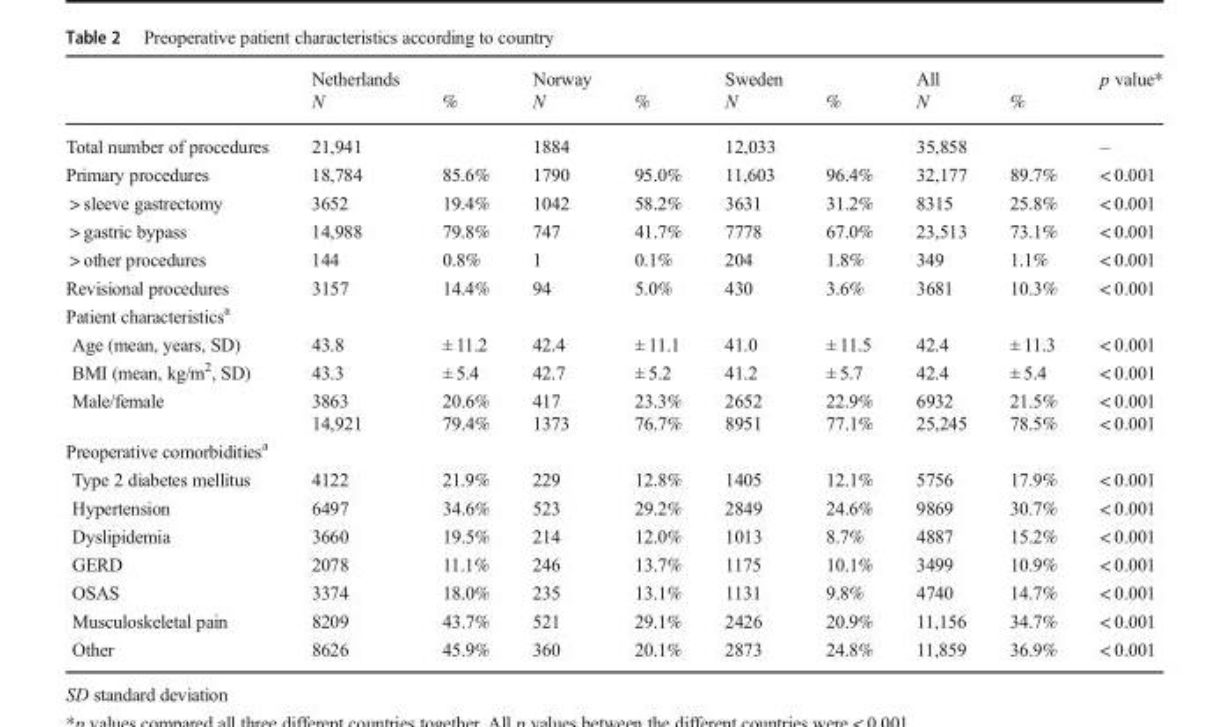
<table><thead><tr><td rowspan="2"></td><td rowspan="2">Netherlands N</td><td rowspan="2">%</td><td rowspan="2">Norway N</td><td rowspan="2">%</td><td rowspan="2">Sweden N</td><td rowspan="2">%</td><td rowspan="2">All N</td><td rowspan="2">%</td><td rowspan="2">p value*</td></tr><tr></tr></thead><tbody><tr><td>Total number of procedures</td><td>21,941</td><td></td><td>1884</td><td></td><td>12,033</td><td></td><td>35,858</td><td></td><td>–</td></tr><tr><td>Primary procedures</td><td>18,784</td><td>85.6%</td><td>1790</td><td>95.0%</td><td>11,603</td><td>96.4%</td><td>32,177</td><td>89.7%</td><td>&lt; 0.001</td></tr><tr><td>&gt; sleeve gastrectomy</td><td>3652</td><td>19.4%</td><td>1042</td><td>58.2%</td><td>3631</td><td>31.2%</td><td>8315</td><td>25.8%</td><td>&lt; 0.001</td></tr><tr><td>&gt; gastric bypass</td><td>14,988</td><td>79.8%</td><td>747</td><td>41.7%</td><td>7778</td><td>67.0%</td><td>23,513</td><td>73.1%</td><td>&lt; 0.001</td></tr><tr><td>&gt; other procedures</td><td>144</td><td>0.8%</td><td>1</td><td>0.1%</td><td>204</td><td>1.8%</td><td>349</td><td>1.1%</td><td>&lt; 0.001</td></tr><tr><td>Revisional procedures</td><td>3157</td><td>14.4%</td><td>94</td><td>5.0%</td><td>430</td><td>3.6%</td><td>3681</td><td>10.3%</td><td>&lt; 0.001</td></tr><tr><td colspan="10">Patient characteristics<sup>a</sup></td></tr><tr><td>Age (mean, years, SD)</td><td>43.8</td><td>± 11.2</td><td>42.4</td><td>± 11.1</td><td>41.0</td><td>± 11.5</td><td>42.4</td><td>± 11.3</td><td>&lt; 0.001</td></tr><tr><td>BMI (mean, kg/m<sup>2</sup>, SD)</td><td>43.3</td><td>± 5.4</td><td>42.7</td><td>± 5.2</td><td>41.2</td><td>± 5.7</td><td>42.4</td><td>± 5.4</td><td>&lt; 0.001</td></tr><tr><td>Male/female</td><td>3863 14,921</td><td>20.6% 79.4%</td><td>417 1373</td><td>23.3% 76.7%</td><td>2652 8951</td><td>22.9% 77.1%</td><td>6932 25,245</td><td>21.5% 78.5%</td><td>&lt; 0.001 &lt; 0.001</td></tr><tr><td colspan="10">Preoperative comorbidities<sup>a</sup></td></tr><tr><td>Type 2 diabetes mellitus</td><td>4122</td><td>21.9%</td><td>229</td><td>12.8%</td><td>1405</td><td>12.1%</td><td>5756</td><td>17.9%</td><td>&lt; 0.001</td></tr><tr><td>Hypertension</td><td>6497</td><td>34.6%</td><td>523</td><td>29.2%</td><td>2849</td><td>24.6%</td><td>9869</td><td>30.7%</td><td>&lt; 0.001</td></tr><tr><td>Dyslipidemia</td><td>3660</td><td>19.5%</td><td>214</td><td>12.0%</td><td>1013</td><td>8.7%</td><td>4887</td><td>15.2%</td><td>&lt; 0.001</td></tr><tr><td>GERD</td><td>2078</td><td>11.1%</td><td>246</td><td>13.7%</td><td>1175</td><td>10.1%</td><td>3499</td><td>10.9%</td><td>&lt; 0.001</td></tr><tr><td>OSAS</td><td>3374</td><td>18.0%</td><td>235</td><td>13.1%</td><td>1131</td><td>9.8%</td><td>4740</td><td>14.7%</td><td>&lt; 0.001</td></tr><tr><td>Musculoskeletal pain</td><td>8209</td><td>43.7%</td><td>521</td><td>29.1%</td><td>2426</td><td>20.9%</td><td>11,156</td><td>34.7%</td><td>&lt; 0.001</td></tr><tr><td>Other</td><td>8626</td><td>45.9%</td><td>360</td><td>20.1%</td><td>2873</td><td>24.8%</td><td>11,859</td><td>36.9%</td><td>&lt; 0.001</td></tr></tbody></table>